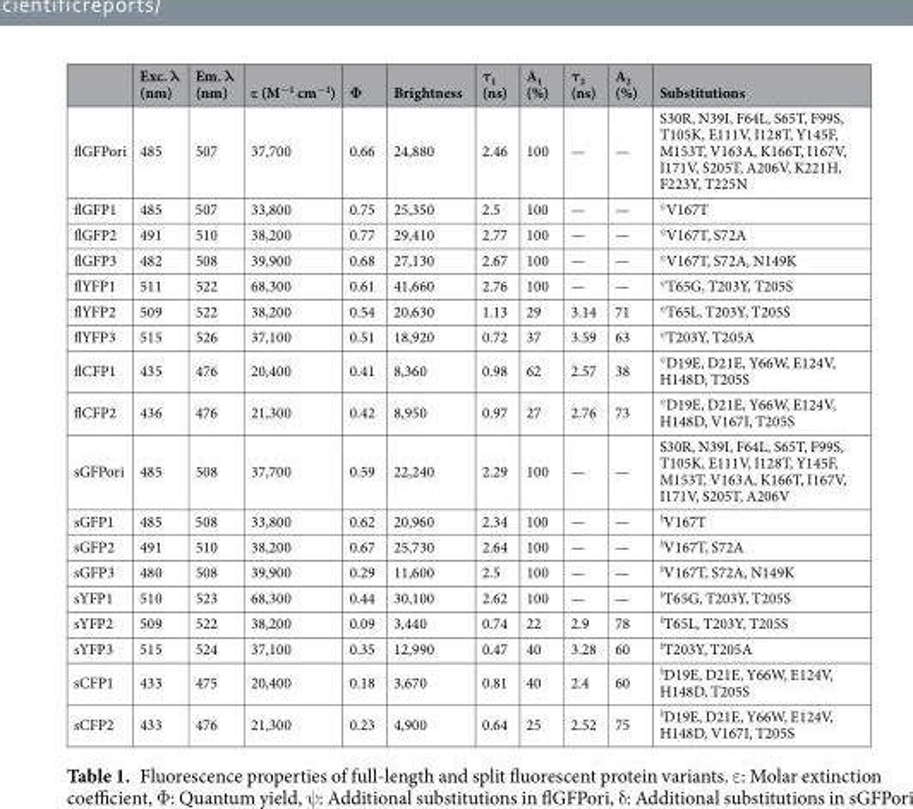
<table><thead><tr><td></td><td>Exc. λ (nm)</td><td>Em. λ (nm)</td><td>ε (M<sup>−1</sup> cm<sup>−1</sup>)</td><td>Φ</td><td>Brightness</td><td>τ<sub>1</sub> (ns)</td><td>A<sub>1</sub> (%)</td><td>τ<sub>2</sub> (ns)</td><td>A<sub>2</sub> (%)</td><td>Substitutions</td></tr></thead><tbody><tr><td>flGFPori</td><td>485</td><td>507</td><td>37,700</td><td>0.66</td><td>24,880</td><td>2.46</td><td>100</td><td>—</td><td>—</td><td>S30R, N39I, F64L, S65T, F99S, T105K, E111V, I128T, Y145F, M153T, V163A, K166T, I167V, I171V, S205T, A206V, K221H, F223Y, T225N</td></tr><tr><td>flGFP1</td><td>485</td><td>507</td><td>33,800</td><td>0.75</td><td>25,350</td><td>2.5</td><td>100</td><td>—</td><td>—</td><td><sup>ψ</sup>V167T</td></tr><tr><td>flGFP2</td><td>491</td><td>510</td><td>38,200</td><td>0.77</td><td>29,410</td><td>2.77</td><td>100</td><td>—</td><td>—</td><td><sup>ψ</sup>V167T, S72A</td></tr><tr><td>flGFP3</td><td>482</td><td>508</td><td>39,900</td><td>0.68</td><td>27,130</td><td>2.67</td><td>100</td><td>—</td><td>—</td><td><sup>ψ</sup>V167T, S72A, N149K</td></tr><tr><td>flYFP1</td><td>511</td><td>522</td><td>68,300</td><td>0.61</td><td>41,660</td><td>2.76</td><td>100</td><td>—</td><td>—</td><td><sup>ψ</sup>T65G, T203Y, T205S</td></tr><tr><td>flYFP2</td><td>509</td><td>522</td><td>38,200</td><td>0.54</td><td>20,630</td><td>1.13</td><td>29</td><td>3.14</td><td>71</td><td><sup>ψ</sup>T65L, T203Y, T205S</td></tr><tr><td>flYFP3</td><td>515</td><td>526</td><td>37,100</td><td>0.51</td><td>18,920</td><td>0.72</td><td>37</td><td>3.59</td><td>63</td><td><sup>ψ</sup>T203Y, T205A</td></tr><tr><td>flCFP1</td><td>435</td><td>476</td><td>20,400</td><td>0.41</td><td>8,360</td><td>0.98</td><td>62</td><td>2.57</td><td>38</td><td><sup>ψ</sup>D19E, D21E, Y66W, E124V, H148D, T205S</td></tr><tr><td>flCFP2</td><td>436</td><td>476</td><td>21,300</td><td>0.42</td><td>8,950</td><td>0.97</td><td>27</td><td>2.76</td><td>73</td><td><sup>ψ</sup>D19E, D21E, Y66W, E124V, H148D, V167I, T205S</td></tr><tr><td>sGFPori</td><td>485</td><td>508</td><td>37,700</td><td>0.59</td><td>22,240</td><td>2.29</td><td>100</td><td>—</td><td>—</td><td>S30R, N39I, F64L, S65T, F99S, T105K, E111V, I128T, Y145F, M153T, V163A, K166T, I167V, I171V, S205T, A206V</td></tr><tr><td>sGFP1</td><td>485</td><td>508</td><td>33,800</td><td>0.62</td><td>20,960</td><td>2.34</td><td>100</td><td>—</td><td>—</td><td><sup>δ</sup>V167T</td></tr><tr><td>sGFP2</td><td>491</td><td>510</td><td>38,200</td><td>0.67</td><td>25,730</td><td>2.64</td><td>100</td><td>—</td><td>—</td><td><sup>δ</sup>V167T, S72A</td></tr><tr><td>sGFP3</td><td>480</td><td>508</td><td>39,900</td><td>0.29</td><td>11,600</td><td>2.5</td><td>100</td><td>—</td><td>—</td><td><sup>δ</sup>V167T, S72A, N149K</td></tr><tr><td>sYFP1</td><td>510</td><td>523</td><td>68,300</td><td>0.44</td><td>30,100</td><td>2.62</td><td>100</td><td>—</td><td>—</td><td><sup>δ</sup>T65G, T203Y, T205S</td></tr><tr><td>sYFP2</td><td>509</td><td>522</td><td>38,200</td><td>0.09</td><td>3,440</td><td>0.74</td><td>22</td><td>2.9</td><td>78</td><td><sup>δ</sup>T65L, T203Y, T205S</td></tr><tr><td>sYFP3</td><td>515</td><td>524</td><td>37,100</td><td>0.35</td><td>12,990</td><td>0.47</td><td>40</td><td>3.28</td><td>60</td><td><sup>δ</sup>T203Y, T205A</td></tr><tr><td>sCFP1</td><td>433</td><td>475</td><td>20,400</td><td>0.18</td><td>3,670</td><td>0.81</td><td>40</td><td>2.4</td><td>60</td><td><sup>δ</sup>D19E, D21E, Y66W, E124V, H148D, T205S</td></tr><tr><td>sCFP2</td><td>433</td><td>476</td><td>21,300</td><td>0.23</td><td>4,900</td><td>0.64</td><td>25</td><td>2.52</td><td>75</td><td><sup>δ</sup>D19E, D21E, Y66W, E124V, H148D, V167I, T205S</td></tr></tbody></table>